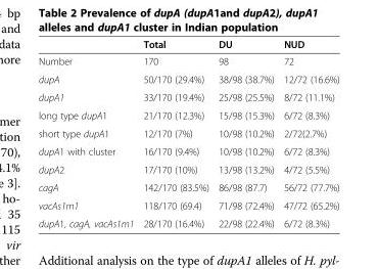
<table><thead><tr><td></td><td>Total</td><td>DU</td><td>NUD</td></tr></thead><tbody><tr><td>Number</td><td>170</td><td>98</td><td>72</td></tr><tr><td>dupA</td><td>50/170 (29.4%)</td><td>38/98 (38.7%)</td><td>12/72 (16.6%)</td></tr><tr><td>dupA1</td><td>33/170 (19.4%)</td><td>25/98 (25.5%)</td><td>8/72 (11.1%)</td></tr><tr><td>long type dupA1</td><td>21/170 (12.3%)</td><td>15/98 (15.3%)</td><td>6/72 (8.3%)</td></tr><tr><td>short type dupA1</td><td>12/170 (7%)</td><td>10/98 (10.2%)</td><td>2/72(2.7%)</td></tr><tr><td>dupA1 with cluster</td><td>16/170 (9.4%)</td><td>10/98 (10.2%)</td><td>6/72 (8.3%)</td></tr><tr><td>dupA2</td><td>17/170 (10%)</td><td>13/98 (13.2%)</td><td>4/72 (5.5%)</td></tr><tr><td>cagA</td><td>142/170 (83.5%)</td><td>86/98 (87.7)</td><td>56/72 (77.7%)</td></tr><tr><td>vacAs1m1</td><td>118/170 (69.4)</td><td>71/98 (72.4%)</td><td>47/72 (65.2%)</td></tr><tr><td>dupA1, cagA, vacAs1m1</td><td>28/170 (16.4%)</td><td>22/98 (22.4%)</td><td>6/72 (8.3%)</td></tr></tbody></table>